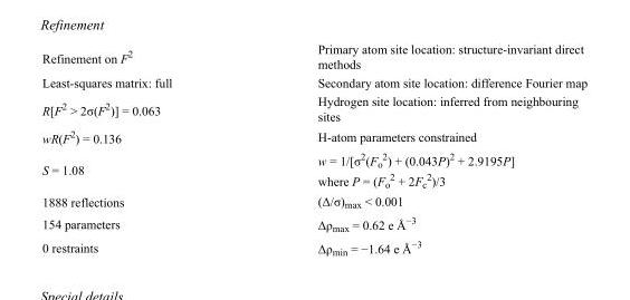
<table><tbody><tr><td>Refinement on F<sup>2</sup></td><td>Primary atom site location: structure-invariant direct methods</td></tr><tr><td>Least-squares matrix: full</td><td>Secondary atom site location: difference Fourier map</td></tr><tr><td>R[F<sup>2</sup> &gt; 2σ(F<sup>2</sup>)] = 0.063</td><td>Hydrogen site location: inferred from neighbouring sites</td></tr><tr><td>wR(F<sup>2</sup>) = 0.136</td><td>H-atom parameters constrained</td></tr><tr><td>S = 1.08</td><td>w = 1/[σ<sup>2</sup>(F<sub>o</sub> <sup>2</sup>) + (0.043P)<sup>2</sup> + 2.9195P] where P = (F<sub>o</sub> <sup>2</sup> + 2F<sub>c</sub> <sup>2</sup>)/3</td></tr><tr><td>1888 reflections</td><td>(Δ/σ)<sub>max</sub> &lt; 0.001</td></tr><tr><td>154 parameters</td><td>Δρ<sub>max</sub> = 0.62 e Å<sup>−3</sup></td></tr><tr><td>0 restraints</td><td>Δρ<sub>min</sub> = −1.64 e Å<sup>−3</sup></td></tr></tbody></table>